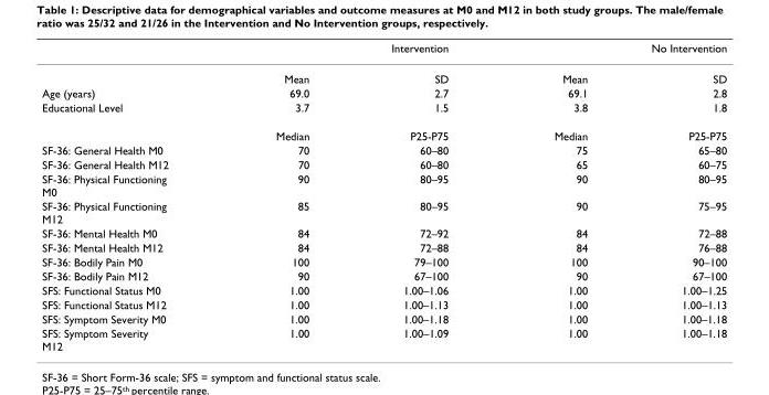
<table><thead><tr><td rowspan="2"></td><td colspan="2">Intervention</td><td colspan="2">No Intervention</td></tr><tr><td>Mean</td><td>SD</td><td>Mean</td><td>SD</td></tr></thead><tbody><tr><td>Age (years)</td><td>69.0</td><td>2.7</td><td>69.1</td><td>2.8</td></tr><tr><td rowspan="2">Educational Level</td><td>3.7</td><td>1.5</td><td>3.8</td><td>1.8</td></tr><tr><td>Median</td><td>P25-P75</td><td>Median</td><td>P25-P75</td></tr><tr><td>SF-36: General Health M0</td><td>70</td><td>60–80</td><td>75</td><td>65–80</td></tr><tr><td>SF-36: General Health M12</td><td>70</td><td>60–80</td><td>65</td><td>60–75</td></tr><tr><td>SF-36: Physical Functioning M0</td><td>90</td><td>80–95</td><td>90</td><td>80–95</td></tr><tr><td>SF-36: Physical Functioning M12</td><td>85</td><td>80–95</td><td>90</td><td>75–95</td></tr><tr><td>SF-36: Mental Health M0</td><td>84</td><td>72–92</td><td>84</td><td>72–88</td></tr><tr><td>SF-36: Mental Health M12</td><td>84</td><td>72–88</td><td>84</td><td>76–88</td></tr><tr><td>SF-36: Bodily Pain M0</td><td>100</td><td>79–100</td><td>100</td><td>90–100</td></tr><tr><td>SF-36: Bodily Pain M12</td><td>90</td><td>67–100</td><td>90</td><td>67–100</td></tr><tr><td>SFS: Functional Status M0</td><td>1.00</td><td>1.00–1.06</td><td>1.00</td><td>1.00–1.25</td></tr><tr><td>SFS: Functional Status M12</td><td>1.00</td><td>1.00–1.13</td><td>1.00</td><td>1.00–1.13</td></tr><tr><td>SFS: Symptom Severity M0</td><td>1.00</td><td>1.00–1.18</td><td>1.00</td><td>1.00–1.18</td></tr><tr><td>SFS: Symptom Severity M12</td><td>1.00</td><td>1.00–1.09</td><td>1.00</td><td>1.00–1.18</td></tr></tbody></table>